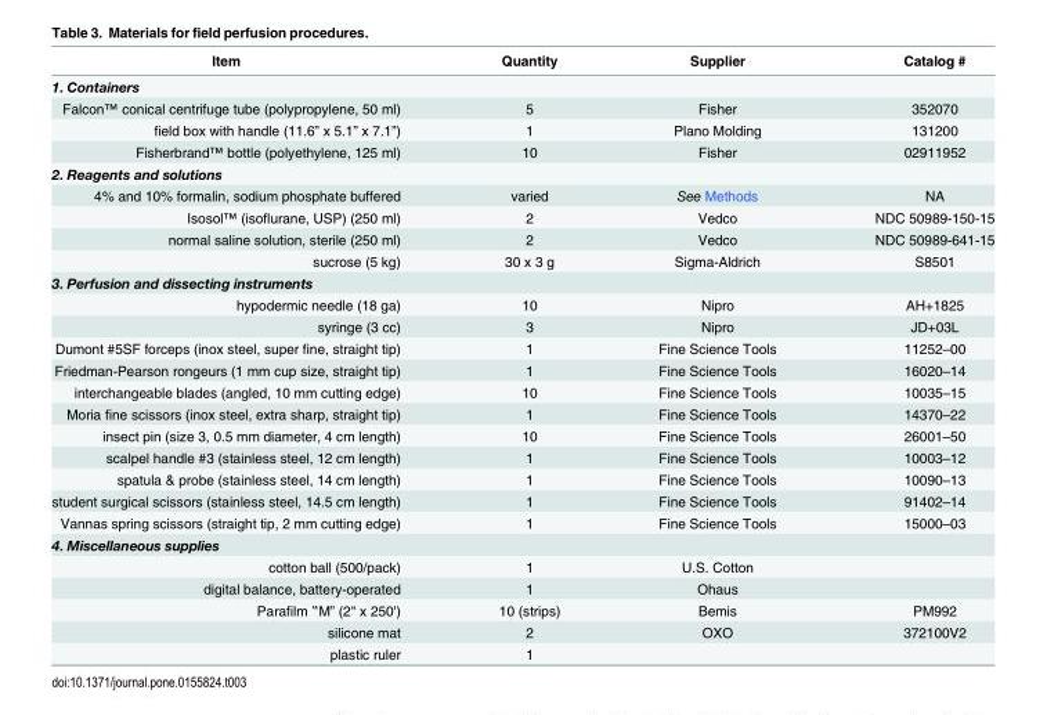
<table><thead><tr><td>Item</td><td>Quantity</td><td>Supplier</td><td>Catalog #</td></tr></thead><tbody><tr><td colspan="4">1. Containers</td></tr><tr><td>Falcon<sup>™</sup> conical centrifuge tube (polypropylene, 50 ml)</td><td>5</td><td>Fisher</td><td>352070</td></tr><tr><td>field box with handle (11.6” x 5.1” x 7.1”)</td><td>1</td><td>Plano Molding</td><td>131200</td></tr><tr><td>Fisherbrand<sup>™</sup> bottle (polyethylene, 125 ml)</td><td>10</td><td>Fisher</td><td>02911952</td></tr><tr><td colspan="4">2. Reagents and solutions</td></tr><tr><td>4% and 10% formalin, sodium phosphate buffered</td><td>varied</td><td>See Methods</td><td>NA</td></tr><tr><td>Isosol<sup>™</sup> (isoflurane, USP) (250 ml)</td><td>2</td><td>Vedco</td><td>NDC 50989-150-15</td></tr><tr><td>normal saline solution, sterile (250 ml)</td><td>2</td><td>Vedco</td><td>NDC 50989-641-15</td></tr><tr><td>sucrose (5 kg)</td><td>30 x 3 g</td><td>Sigma-Aldrich</td><td>S8501</td></tr><tr><td colspan="4">3. Perfusion and dissecting instruments</td></tr><tr><td>hypodermic needle (18 ga)</td><td>10</td><td>Nipro</td><td>AH+1825</td></tr><tr><td>syringe (3 cc)</td><td>3</td><td>Nipro</td><td>JD+03L</td></tr><tr><td>Dumont #5SF forceps (inox steel, super fine, straight tip)</td><td>1</td><td>Fine Science Tools</td><td>11252–00</td></tr><tr><td>Friedman-Pearson rongeurs (1 mm cup size, straight tip)</td><td>1</td><td>Fine Science Tools</td><td>16020–14</td></tr><tr><td>interchangeable blades (angled, 10 mm cutting edge)</td><td>10</td><td>Fine Science Tools</td><td>10035–15</td></tr><tr><td>Moria fine scissors (inox steel, extra sharp, straight tip)</td><td>1</td><td>Fine Science Tools</td><td>14370–22</td></tr><tr><td>insect pin (size 3, 0.5 mm diameter, 4 cm length)</td><td>10</td><td>Fine Science Tools</td><td>26001–50</td></tr><tr><td>scalpel handle #3 (stainless steel, 12 cm length)</td><td>1</td><td>Fine Science Tools</td><td>10003–12</td></tr><tr><td>spatula &amp; probe (stainless steel, 14 cm length)</td><td>1</td><td>Fine Science Tools</td><td>10090–13</td></tr><tr><td>student surgical scissors (stainless steel, 14.5 cm length)</td><td>1</td><td>Fine Science Tools</td><td>91402–14</td></tr><tr><td>Vannas spring scissors (straight tip, 2 mm cutting edge)</td><td>1</td><td>Fine Science Tools</td><td>15000–03</td></tr><tr><td colspan="4">4. Miscellaneous supplies</td></tr><tr><td>cotton ball (500/pack)</td><td>1</td><td>U.S. Cotton</td><td></td></tr><tr><td>digital balance, battery-operated</td><td>1</td><td>Ohaus</td><td></td></tr><tr><td>Parafilm ‟M” (2&quot; x 250&#x27;)</td><td>10 (strips)</td><td>Bemis</td><td>PM992</td></tr><tr><td>silicone mat</td><td>2</td><td>OXO</td><td>372100V2</td></tr><tr><td>plastic ruler</td><td>1</td><td></td><td></td></tr></tbody></table>